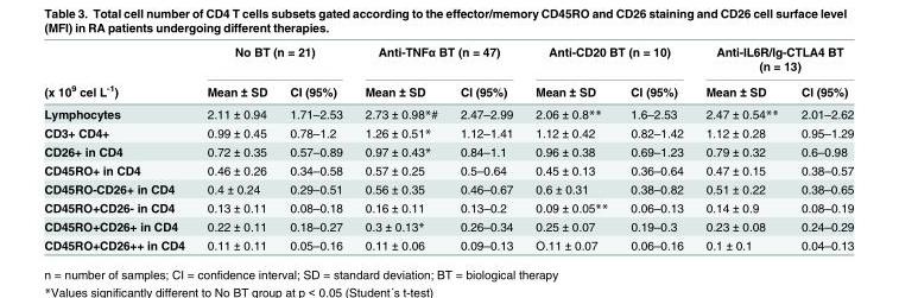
<table><thead><tr><td rowspan="2">(x 10<sup>9</sup> cel L<sup>-1</sup>)</td><td colspan="2">No BT (n = 21)</td><td colspan="2">Anti-TNFα BT (n = 47)</td><td colspan="2">Anti-CD20 BT (n = 10)</td><td colspan="2">Anti-IL6R/Ig-CTLA4 BT (n = 13)</td></tr><tr><td>Mean ± SD</td><td>CI (95%)</td><td>Mean ± SD</td><td>CI (95%)</td><td>Mean ± SD</td><td>CI (95%)</td><td>Mean ± SD</td><td>CI (95%)</td></tr></thead><tbody><tr><td>Lymphocytes</td><td>2.11 ± 0.94</td><td>1.71–2.53</td><td>2.73 ± 0.98*#</td><td>2.47–2.99</td><td>2.06 ± 0.8**</td><td>1.6–2.53</td><td>2.47 ± 0.54**</td><td>2.01–2.62</td></tr><tr><td>CD3+ CD4+</td><td>0.99 ± 0.45</td><td>0.78–1.2</td><td>1.26 ± 0.51*</td><td>1.12–1.41</td><td>1.12 ± 0.42</td><td>0.82–1.42</td><td>1.12 ± 0.28</td><td>0.95–1.29</td></tr><tr><td>CD26+ in CD4</td><td>0.72 ± 0.35</td><td>0.57–0.89</td><td>0.97 ± 0.43*</td><td>0.84–1.1</td><td>0.96 ± 0.38</td><td>0.69–1.23</td><td>0.79 ± 0.32</td><td>0.6–0.98</td></tr><tr><td>CD45RO+ in CD4</td><td>0.46 ± 0.26</td><td>0.34–0.58</td><td>0.57 ± 0.25</td><td>0.5–0.64</td><td>0.45 ± 0.13</td><td>0.36–0.64</td><td>0.47 ± 0.15</td><td>0.38–0.57</td></tr><tr><td>CD45RO-CD26+ in CD4</td><td>0.4 ± 0.24</td><td>0.29–0.51</td><td>0.56 ± 0.35</td><td>0.46–0.67</td><td>0.6 ± 0.31</td><td>0.38–0.82</td><td>0.51 ± 0.22</td><td>0.38–0.65</td></tr><tr><td>CD45RO+CD26- in CD4</td><td>0.13 ± 0.11</td><td>0.08–0.18</td><td>0.16 ± 0.11</td><td>0.13–0.2</td><td>0.09 ± 0.05**</td><td>0.06–0.13</td><td>0.14 ± 0.9</td><td>0.08–0.19</td></tr><tr><td>CD45RO+CD26+ in CD4</td><td>0.22 ± 0.11</td><td>0.18–0.27</td><td>0.3 ± 0.13*</td><td>0.26–0.34</td><td>0.25 ± 0.07</td><td>0.19–0.3</td><td>0.23 ± 0.08</td><td>0.24–0.29</td></tr><tr><td>CD45RO+CD26++ in CD4</td><td>0.11 ± 0.11</td><td>0.05–0.16</td><td>0.11 ± 0.06</td><td>0.09–0.13</td><td>O.11 ± 0.07</td><td>0.06–0.16</td><td>0.1 ± 0.1</td><td>0.04–0.13</td></tr></tbody></table>